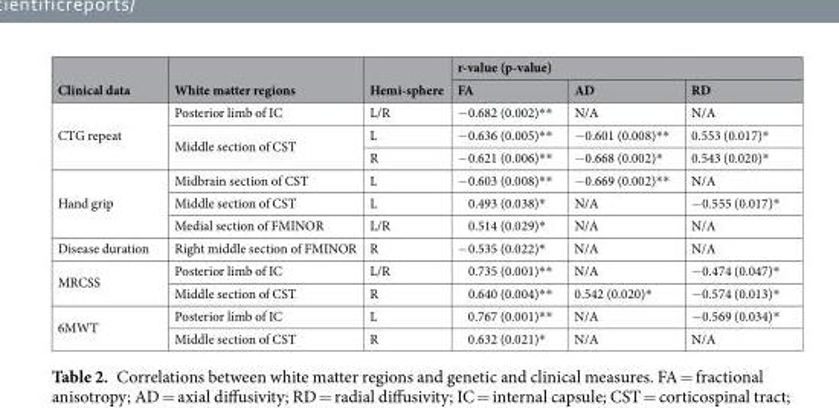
<table><thead><tr><td rowspan="2">Clinical data</td><td rowspan="2">White matter regions</td><td rowspan="2">Hemi-sphere</td><td colspan="3">r-value (p-value)</td></tr><tr><td>FA</td><td>AD</td><td>RD</td></tr></thead><tbody><tr><td rowspan="3">CTG repeat</td><td>Posterior limb of IC</td><td>L/R</td><td>−0.682 (0.002)**</td><td>N/A</td><td>N/A</td></tr><tr><td rowspan="2">Middle section of CST</td><td>L</td><td>−0.636 (0.005)**</td><td>−0.601 (0.008)**</td><td>0.553 (0.017)*</td></tr><tr><td>R</td><td>−0.621 (0.006)**</td><td>−0.668 (0.002)*</td><td>0.543 (0.020)*</td></tr><tr><td rowspan="3">Hand grip</td><td>Midbrain section of CST</td><td>L</td><td>−0.603 (0.008)**</td><td>−0.669 (0.002)**</td><td>N/A</td></tr><tr><td>Middle section of CST</td><td>L</td><td>0.493 (0.038)*</td><td>N/A</td><td>−0.555 (0.017)*</td></tr><tr><td>Medial section of FMINOR</td><td>L/R</td><td>0.514 (0.029)*</td><td>N/A</td><td>N/A</td></tr><tr><td>Disease duration</td><td>Right middle section of FMINOR</td><td>R</td><td>−0.535 (0.022)*</td><td>N/A</td><td>N/A</td></tr><tr><td rowspan="2">MRCSS</td><td>Posterior limb of IC</td><td>L/R</td><td>0.735 (0.001)**</td><td>N/A</td><td>−0.474 (0.047)*</td></tr><tr><td>Middle section of CST</td><td>R</td><td>0.640 (0.004)**</td><td>0.542 (0.020)*</td><td>−0.574 (0.013)*</td></tr><tr><td rowspan="2">6MWT</td><td>Posterior limb of IC</td><td>L</td><td>0.767 (0.001)**</td><td>N/A</td><td>−0.569 (0.034)*</td></tr><tr><td>Middle section of CST</td><td>R</td><td>0.632 (0.021)*</td><td>N/A</td><td>N/A</td></tr></tbody></table>